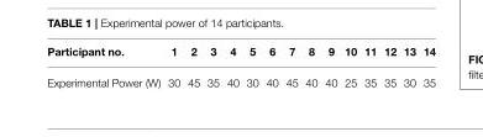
<table><thead><tr><td>Participant no.</td><td>1</td><td>2</td><td>3</td><td>4</td><td>5</td><td>6</td><td>7</td><td>8</td><td>9</td><td>10</td><td>11</td><td>12</td><td>13</td><td>14</td></tr></thead><tbody><tr><td>Experimental Power (W)</td><td>30</td><td>45</td><td>35</td><td>40</td><td>30</td><td>40</td><td>45</td><td>40</td><td>40</td><td>25</td><td>35</td><td>35</td><td>30</td><td>35</td></tr></tbody></table>